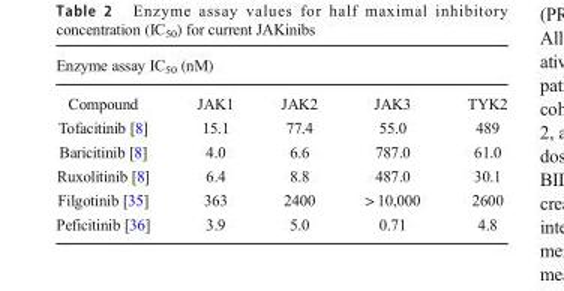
<table><thead><tr><td colspan="5">Enzyme assay IC<sub>50</sub> (nM)</td></tr><tr><td>Compound</td><td>JAK1</td><td>JAK2</td><td>JAK3</td><td>TYK2</td></tr></thead><tbody><tr><td>Tofacitinib [8]</td><td>15.1</td><td>77.4</td><td>55.0</td><td>489</td></tr><tr><td>Baricitinib [8]</td><td>4.0</td><td>6.6</td><td>787.0</td><td>61.0</td></tr><tr><td>Ruxolitinib [8]</td><td>6.4</td><td>8.8</td><td>487.0</td><td>30.1</td></tr><tr><td>Filgotinib [35]</td><td>363</td><td>2400</td><td>&gt; 10,000</td><td>2600</td></tr><tr><td>Peficitinib [36]</td><td>3.9</td><td>5.0</td><td>0.71</td><td>4.8</td></tr></tbody></table>